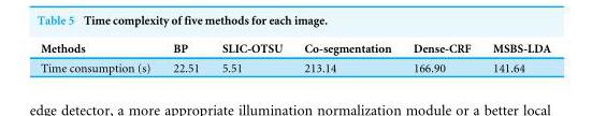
<table><thead><tr><td>Methods</td><td>BP</td><td>SLIC-OTSU</td><td>Co-segmentation</td><td>Dense-CRF</td><td>MSBS-LDA</td></tr></thead><tbody><tr><td>Time consumption (s)</td><td>22.51</td><td>5.51</td><td>213.14</td><td>166.90</td><td>141.64</td></tr></tbody></table>